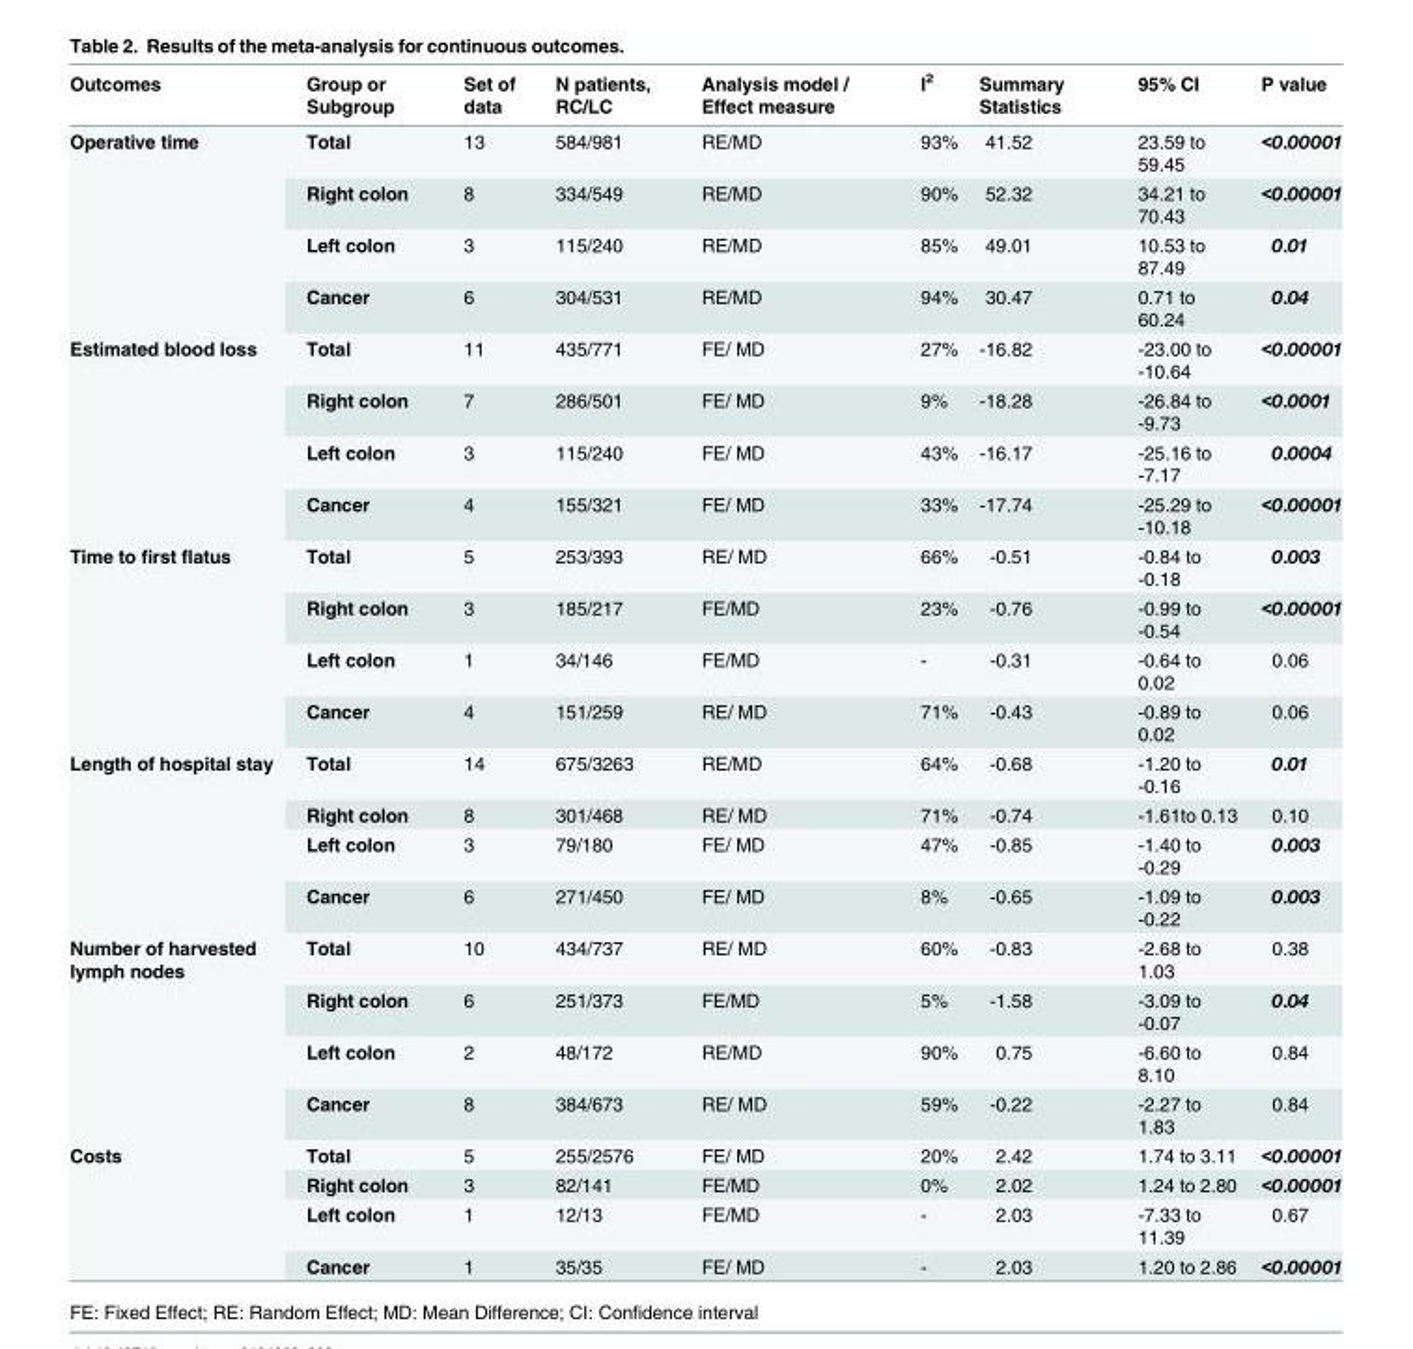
<table><thead><tr><td>Outcomes</td><td>Group or Subgroup</td><td>Set of data</td><td>N patients, RC/LC</td><td>Analysis model / Effect measure</td><td>I<sup>2</sup></td><td>Summary Statistics</td><td>95% CI</td><td>P value</td></tr></thead><tbody><tr><td rowspan="4">Operative time</td><td>Total</td><td>13</td><td>584/981</td><td>RE/MD</td><td>93%</td><td>41.52</td><td>23.59 to 59.45</td><td>&lt;0.00001</td></tr><tr><td>Right colon</td><td>8</td><td>334/549</td><td>RE/MD</td><td>90%</td><td>52.32</td><td>34.21 to 70.43</td><td>&lt;0.00001</td></tr><tr><td>Left colon</td><td>3</td><td>115/240</td><td>RE/MD</td><td>85%</td><td>49.01</td><td>10.53 to 87.49</td><td>0.01</td></tr><tr><td>Cancer</td><td>6</td><td>304/531</td><td>RE/MD</td><td>94%</td><td>30.47</td><td>0.71 to 60.24</td><td>0.04</td></tr><tr><td rowspan="4">Estimated blood loss</td><td>Total</td><td>11</td><td>435/771</td><td>FE/ MD</td><td>27%</td><td>-16.82</td><td>-23.00 to -10.64</td><td>&lt;0.00001</td></tr><tr><td>Right colon</td><td>7</td><td>286/501</td><td>FE/ MD</td><td>9%</td><td>-18.28</td><td>-26.84 to -9.73</td><td>&lt;0.0001</td></tr><tr><td>Left colon</td><td>3</td><td>115/240</td><td>FE/ MD</td><td>43%</td><td>-16.17</td><td>-25.16 to -7.17</td><td>0.0004</td></tr><tr><td>Cancer</td><td>4</td><td>155/321</td><td>FE/ MD</td><td>33%</td><td>-17.74</td><td>-25.29 to -10.18</td><td>&lt;0.00001</td></tr><tr><td rowspan="4">Time to first flatus</td><td>Total</td><td>5</td><td>253/393</td><td>RE/ MD</td><td>66%</td><td>-0.51</td><td>-0.84 to -0.18</td><td>0.003</td></tr><tr><td>Right colon</td><td>3</td><td>185/217</td><td>FE/MD</td><td>23%</td><td>-0.76</td><td>-0.99 to -0.54</td><td>&lt;0.00001</td></tr><tr><td>Left colon</td><td>1</td><td>34/146</td><td>FE/MD</td><td>-</td><td>-0.31</td><td>-0.64 to 0.02</td><td>0.06</td></tr><tr><td>Cancer</td><td>4</td><td>151/259</td><td>RE/ MD</td><td>71%</td><td>-0.43</td><td>-0.89 to 0.02</td><td>0.06</td></tr><tr><td rowspan="4">Length of hospital stay</td><td>Total</td><td>14</td><td>675/3263</td><td>RE/MD</td><td>64%</td><td>-0.68</td><td>-1.20 to -0.16</td><td>0.01</td></tr><tr><td>Right colon</td><td>8</td><td>301/468</td><td>RE/ MD</td><td>71%</td><td>-0.74</td><td>-1.61to 0.13</td><td>0.10</td></tr><tr><td>Left colon</td><td>3</td><td>79/180</td><td>FE/ MD</td><td>47%</td><td>-0.85</td><td>-1.40 to -0.29</td><td>0.003</td></tr><tr><td>Cancer</td><td>6</td><td>271/450</td><td>FE/ MD</td><td>8%</td><td>-0.65</td><td>-1.09 to -0.22</td><td>0.003</td></tr><tr><td rowspan="4">Number of harvested lymph nodes</td><td>Total</td><td>10</td><td>434/737</td><td>RE/ MD</td><td>60%</td><td>-0.83</td><td>-2.68 to 1.03</td><td>0.38</td></tr><tr><td>Right colon</td><td>6</td><td>251/373</td><td>FE/MD</td><td>5%</td><td>-1.58</td><td>-3.09 to -0.07</td><td>0.04</td></tr><tr><td>Left colon</td><td>2</td><td>48/172</td><td>RE/MD</td><td>90%</td><td>0.75</td><td>-6.60 to 8.10</td><td>0.84</td></tr><tr><td>Cancer</td><td>8</td><td>384/673</td><td>RE/ MD</td><td>59%</td><td>-0.22</td><td>-2.27 to 1.83</td><td>0.84</td></tr><tr><td rowspan="4">Costs</td><td>Total</td><td>5</td><td>255/2576</td><td>FE/ MD</td><td>20%</td><td>2.42</td><td>1.74 to 3.11</td><td>&lt;0.00001</td></tr><tr><td>Right colon</td><td>3</td><td>82/141</td><td>FE/MD</td><td>0%</td><td>2.02</td><td>1.24 to 2.80</td><td>&lt;0.00001</td></tr><tr><td>Left colon</td><td>1</td><td>12/13</td><td>FE/MD</td><td>-</td><td>2.03</td><td>-7.33 to 11.39</td><td>0.67</td></tr><tr><td>Cancer</td><td>1</td><td>35/35</td><td>FE/ MD</td><td>-</td><td>2.03</td><td>1.20 to 2.86</td><td>&lt;0.00001</td></tr></tbody></table>